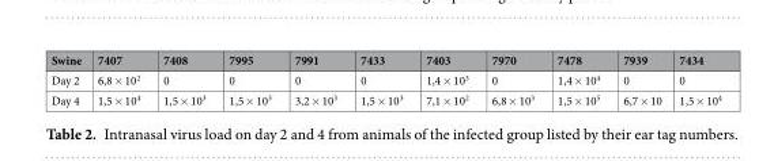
<table><thead><tr><td>Swine</td><td>7407</td><td>7408</td><td>7995</td><td>7991</td><td>7433</td><td>7403</td><td>7970</td><td>7478</td><td>7939</td><td>7434</td></tr></thead><tbody><tr><td>Day 2</td><td>6,8 × 10<sup>2</sup></td><td>0</td><td>0</td><td>0</td><td>0</td><td>1,4 × 10<sup>3</sup></td><td>0</td><td>1,4 × 10<sup>4</sup></td><td>0</td><td>0</td></tr><tr><td>Day 4</td><td>1,5 × 10<sup>4</sup></td><td>1,5 × 10<sup>3</sup></td><td>1,5 × 10<sup>3</sup></td><td>3,2 × 10<sup>3</sup></td><td>1,5 × 10<sup>3</sup></td><td>7,1 × 10<sup>2</sup></td><td>6,8 × 10<sup>3</sup></td><td>1,5 × 10<sup>5</sup></td><td>6,7 × 10</td><td>1,5 × 10<sup>4</sup></td></tr></tbody></table>